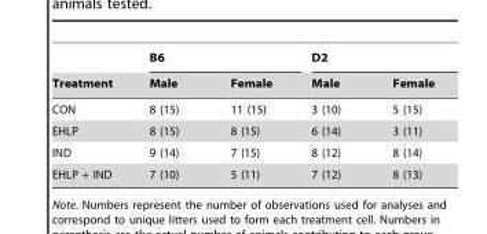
<table><thead><tr><td rowspan="2">Treatment</td><td colspan="2">B6</td><td colspan="2">D2</td></tr><tr><td>Male</td><td>Female</td><td>Male</td><td>Female</td></tr></thead><tbody><tr><td>CON</td><td>8 (15)</td><td>11 (15)</td><td>3 (10)</td><td>5 (15)</td></tr><tr><td>EHLP</td><td>8 (15)</td><td>8 (15)</td><td>6 (14)</td><td>3 (11)</td></tr><tr><td>IND</td><td>9 (14)</td><td>7 (15)</td><td>8 (12)</td><td>8 (14)</td></tr><tr><td>EHLP + IND</td><td>7 (10)</td><td>5 (11)</td><td>7 (12)</td><td>8 (13)</td></tr></tbody></table>